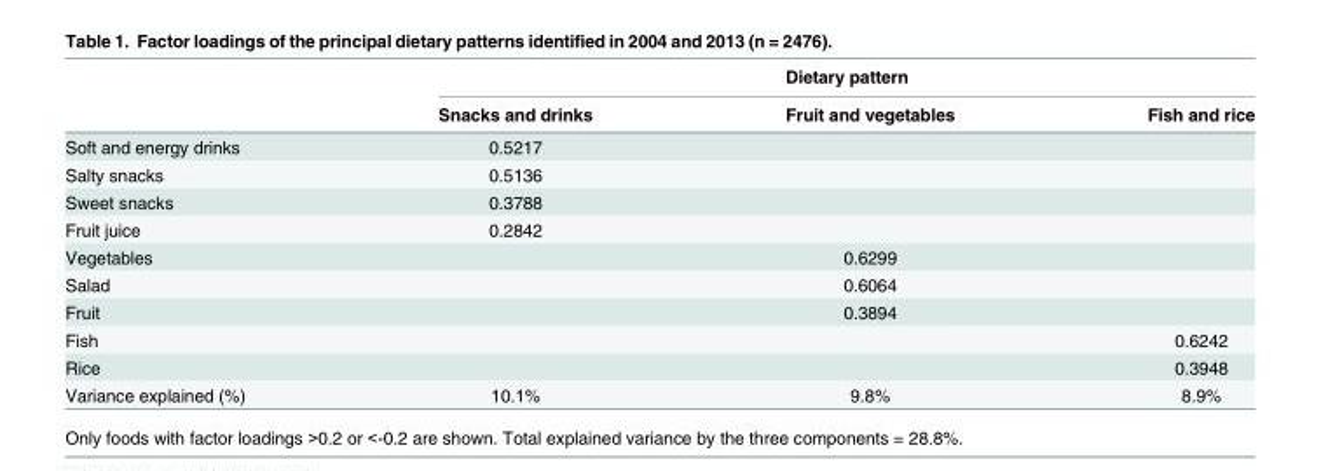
<table><thead><tr><td rowspan="2"></td><td colspan="3">Dietary pattern</td></tr><tr><td>Snacks and drinks</td><td>Fruit and vegetables</td><td>Fish and rice</td></tr></thead><tbody><tr><td>Soft and energy drinks</td><td>0.5217</td><td></td><td></td></tr><tr><td>Salty snacks</td><td>0.5136</td><td></td><td></td></tr><tr><td>Sweet snacks</td><td>0.3788</td><td></td><td></td></tr><tr><td>Fruit juice</td><td>0.2842</td><td></td><td></td></tr><tr><td>Vegetables</td><td></td><td>0.6299</td><td></td></tr><tr><td>Salad</td><td></td><td>0.6064</td><td></td></tr><tr><td>Fruit</td><td></td><td>0.3894</td><td></td></tr><tr><td>Fish</td><td></td><td></td><td>0.6242</td></tr><tr><td>Rice</td><td></td><td></td><td>0.3948</td></tr><tr><td>Variance explained (%)</td><td>10.1%</td><td>9.8%</td><td>8.9%</td></tr></tbody></table>